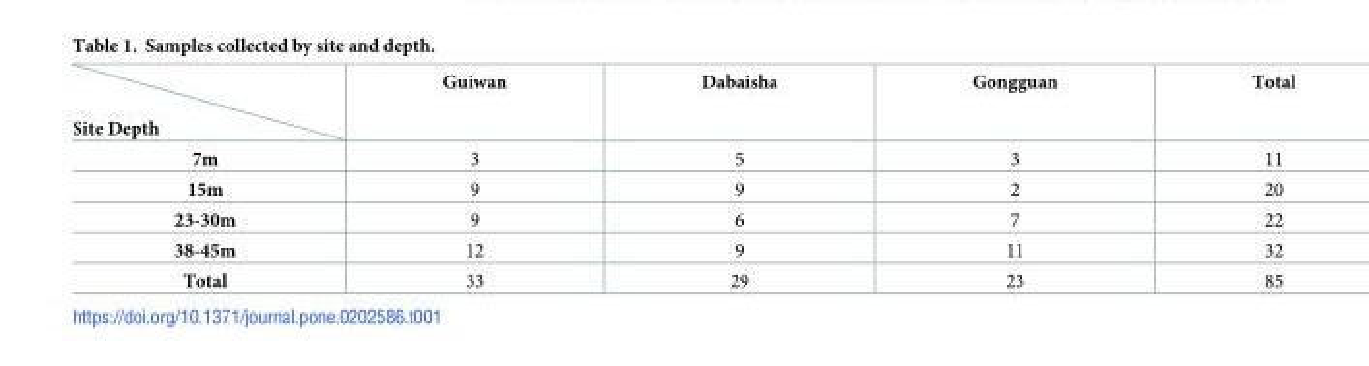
<table><thead><tr><td>Site Depth</td><td>Guiwan</td><td>Dabaisha</td><td>Gongguan</td><td>Total</td></tr></thead><tbody><tr><td>7m</td><td>3</td><td>5</td><td>3</td><td>11</td></tr><tr><td>15m</td><td>9</td><td>9</td><td>2</td><td>20</td></tr><tr><td>23-30m</td><td>9</td><td>6</td><td>7</td><td>22</td></tr><tr><td>38-45m</td><td>12</td><td>9</td><td>11</td><td>32</td></tr><tr><td>Total</td><td>33</td><td>29</td><td>23</td><td>85</td></tr></tbody></table>